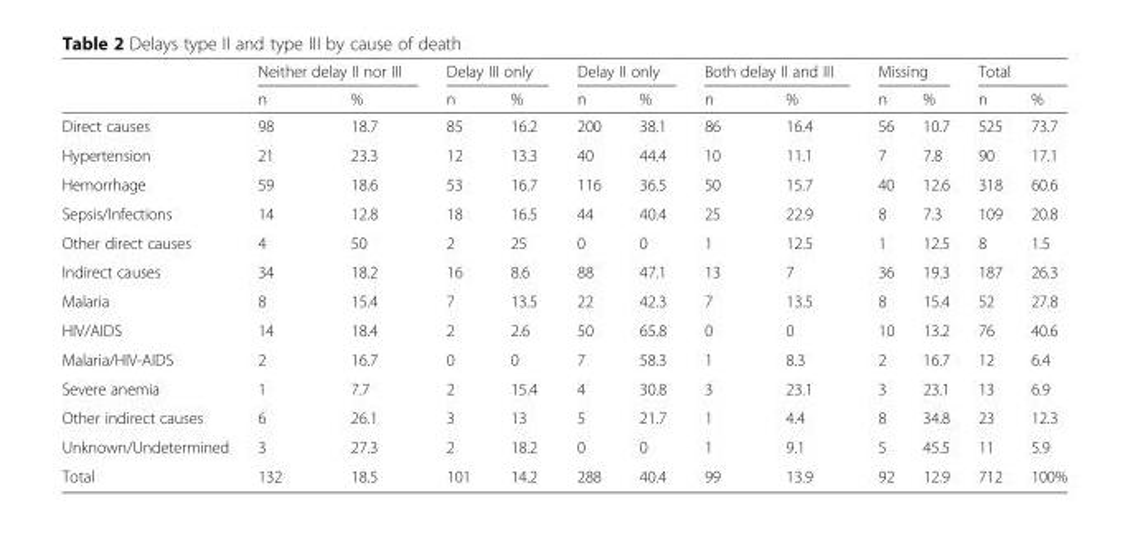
<table><thead><tr><td rowspan="2"></td><td colspan="2">Neither delay II nor III</td><td colspan="2">Delay III only</td><td colspan="2">Delay II only</td><td colspan="2">Both delay II and III</td><td colspan="2">Missing</td><td colspan="2">Total</td></tr><tr><td>n</td><td>%</td><td>n</td><td>%</td><td>n</td><td>%</td><td>n</td><td>%</td><td>n</td><td>%</td><td>n</td><td>%</td></tr></thead><tbody><tr><td>Direct causes</td><td>98</td><td>18.7</td><td>85</td><td>16.2</td><td>200</td><td>38.1</td><td>86</td><td>16.4</td><td>56</td><td>10.7</td><td>525</td><td>73.7</td></tr><tr><td>Hypertension</td><td>21</td><td>23.3</td><td>12</td><td>13.3</td><td>40</td><td>44.4</td><td>10</td><td>11.1</td><td>7</td><td>7.8</td><td>90</td><td>17.1</td></tr><tr><td>Hemorrhage</td><td>59</td><td>18.6</td><td>53</td><td>16.7</td><td>116</td><td>36.5</td><td>50</td><td>15.7</td><td>40</td><td>12.6</td><td>318</td><td>60.6</td></tr><tr><td>Sepsis/Infections</td><td>14</td><td>12.8</td><td>18</td><td>16.5</td><td>44</td><td>40.4</td><td>25</td><td>22.9</td><td>8</td><td>7.3</td><td>109</td><td>20.8</td></tr><tr><td>Other direct causes</td><td>4</td><td>50</td><td>2</td><td>25</td><td>0</td><td>0</td><td>1</td><td>12.5</td><td>1</td><td>12.5</td><td>8</td><td>1.5</td></tr><tr><td>Indirect causes</td><td>34</td><td>18.2</td><td>16</td><td>8.6</td><td>88</td><td>47.1</td><td>13</td><td>7</td><td>36</td><td>19.3</td><td>187</td><td>26.3</td></tr><tr><td>Malaria</td><td>8</td><td>15.4</td><td>7</td><td>13.5</td><td>22</td><td>42.3</td><td>7</td><td>13.5</td><td>8</td><td>15.4</td><td>52</td><td>27.8</td></tr><tr><td>HIV/AIDS</td><td>14</td><td>18.4</td><td>2</td><td>2.6</td><td>50</td><td>65.8</td><td>0</td><td>0</td><td>10</td><td>13.2</td><td>76</td><td>40.6</td></tr><tr><td>Malaria/HIV-AIDS</td><td>2</td><td>16.7</td><td>0</td><td>0</td><td>7</td><td>58.3</td><td>1</td><td>8.3</td><td>2</td><td>16.7</td><td>12</td><td>6.4</td></tr><tr><td>Severe anemia</td><td>1</td><td>7.7</td><td>2</td><td>15.4</td><td>4</td><td>30.8</td><td>3</td><td>23.1</td><td>3</td><td>23.1</td><td>13</td><td>6.9</td></tr><tr><td>Other indirect causes</td><td>6</td><td>26.1</td><td>3</td><td>13</td><td>5</td><td>21.7</td><td>1</td><td>4.4</td><td>8</td><td>34.8</td><td>23</td><td>12.3</td></tr><tr><td>Unknown/Undetermined</td><td>3</td><td>27.3</td><td>2</td><td>18.2</td><td>0</td><td>0</td><td>1</td><td>9.1</td><td>5</td><td>45.5</td><td>11</td><td>5.9</td></tr><tr><td>Total</td><td>132</td><td>18.5</td><td>101</td><td>14.2</td><td>288</td><td>40.4</td><td>99</td><td>13.9</td><td>92</td><td>12.9</td><td>712</td><td>100%</td></tr></tbody></table>